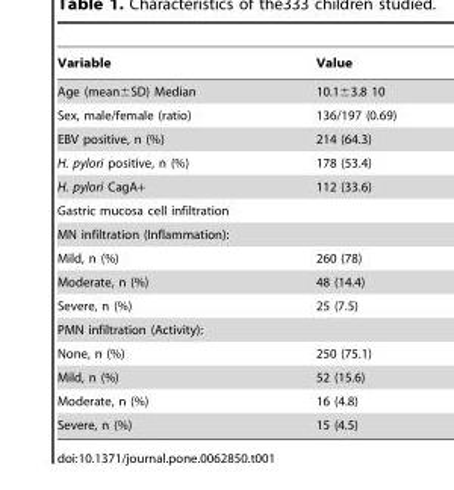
<table><thead><tr><td>Variable</td><td>Value</td></tr></thead><tbody><tr><td>Age (mean±SD) Median</td><td>10.1±3.8 10</td></tr><tr><td>Sex, male/female (ratio)</td><td>136/197 (0.69)</td></tr><tr><td>EBV positive, n (%)</td><td>214 (64.3)</td></tr><tr><td>H. pylori positive, n (%)</td><td>178 (53.4)</td></tr><tr><td>H. pylori CagA+</td><td>112 (33.6)</td></tr><tr><td colspan="2">Gastric mucosa cell infiltration</td></tr><tr><td colspan="2">MN infiltration (Inflammation):</td></tr><tr><td>Mild, n (%)</td><td>260 (78)</td></tr><tr><td>Moderate, n (%)</td><td>48 (14.4)</td></tr><tr><td>Severe, n (%)</td><td>25 (7.5)</td></tr><tr><td colspan="2">PMN infiltration (Activity):</td></tr><tr><td>None, n (%)</td><td>250 (75.1)</td></tr><tr><td>Mild, n (%)</td><td>52 (15.6)</td></tr><tr><td>Moderate, n (%)</td><td>16 (4.8)</td></tr><tr><td>Severe, n (%)</td><td>15 (4.5)</td></tr></tbody></table>